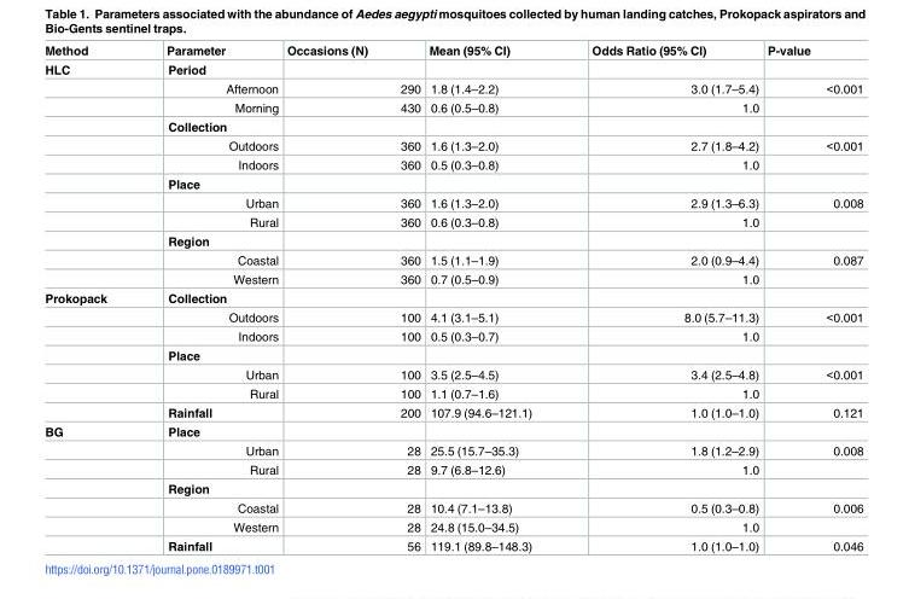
<table><thead><tr><td>Method</td><td>Parameter</td><td>Occasions (N)</td><td>Mean (95% CI)</td><td>Odds Ratio (95% CI)</td><td>P-value</td></tr></thead><tbody><tr><td rowspan="12">HLC</td><td>Period</td><td></td><td></td><td></td><td></td></tr><tr><td>Afternoon</td><td>290</td><td>1.8 (1.4–2.2)</td><td>3.0 (1.7–5.4)</td><td>&lt;0.001</td></tr><tr><td>Morning</td><td>430</td><td>0.6 (0.5–0.8)</td><td>1.0</td><td></td></tr><tr><td>Collection</td><td></td><td></td><td></td><td></td></tr><tr><td>Outdoors</td><td>360</td><td>1.6 (1.3–2.0)</td><td>2.7 (1.8–4.2)</td><td>&lt;0.001</td></tr><tr><td>Indoors</td><td>360</td><td>0.5 (0.3–0.8)</td><td>1.0</td><td></td></tr><tr><td>Place</td><td></td><td></td><td></td><td></td></tr><tr><td>Urban</td><td>360</td><td>1.6 (1.3–2.0)</td><td>2.9 (1.3–6.3)</td><td>0.008</td></tr><tr><td>Rural</td><td>360</td><td>0.6 (0.3–0.8)</td><td>1.0</td><td></td></tr><tr><td>Region</td><td></td><td></td><td></td><td></td></tr><tr><td>Coastal</td><td>360</td><td>1.5 (1.1–1.9)</td><td>2.0 (0.9–4.4)</td><td>0.087</td></tr><tr><td>Western</td><td>360</td><td>0.7 (0.5–0.9)</td><td>1.0</td><td></td></tr><tr><td rowspan="7">Prokopack</td><td>Collection</td><td></td><td></td><td></td><td></td></tr><tr><td>Outdoors</td><td>100</td><td>4.1 (3.1–5.1)</td><td>8.0 (5.7–11.3)</td><td>&lt;0.001</td></tr><tr><td>Indoors</td><td>100</td><td>0.5 (0.3–0.7)</td><td>1.0</td><td></td></tr><tr><td>Place</td><td></td><td></td><td></td><td></td></tr><tr><td>Urban</td><td>100</td><td>3.5 (2.5–4.5)</td><td>3.4 (2.5–4.8)</td><td>&lt;0.001</td></tr><tr><td>Rural</td><td>100</td><td>1.1 (0.7–1.6)</td><td>1.0</td><td></td></tr><tr><td>Rainfall</td><td>200</td><td>107.9 (94.6–121.1)</td><td>1.0 (1.0–1.0)</td><td>0.121</td></tr><tr><td rowspan="7">BG</td><td>Place</td><td></td><td></td><td></td><td></td></tr><tr><td>Urban</td><td>28</td><td>25.5 (15.7–35.3)</td><td>1.8 (1.2–2.9)</td><td>0.008</td></tr><tr><td>Rural</td><td>28</td><td>9.7 (6.8–12.6)</td><td>1.0</td><td></td></tr><tr><td>Region</td><td></td><td></td><td></td><td></td></tr><tr><td>Coastal</td><td>28</td><td>10.4 (7.1–13.8)</td><td>0.5 (0.3–0.8)</td><td>0.006</td></tr><tr><td>Western</td><td>28</td><td>24.8 (15.0–34.5)</td><td>1.0</td><td></td></tr><tr><td>Rainfall</td><td>56</td><td>119.1 (89.8–148.3)</td><td>1.0 (1.0–1.0)</td><td>0.046</td></tr></tbody></table>